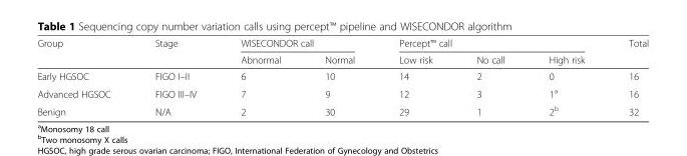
<table><thead><tr><td rowspan="2">Group</td><td rowspan="2">Stage</td><td colspan="2">WISECONDOR call</td><td colspan="3">Percept™ call</td><td rowspan="2">Total</td></tr><tr><td>Abnormal</td><td>Normal</td><td>Low risk</td><td>No call</td><td>High risk</td></tr></thead><tbody><tr><td>Early HGSOC</td><td>FIGO I–II</td><td>6</td><td>10</td><td>14</td><td>2</td><td>0</td><td>16</td></tr><tr><td>Advanced HGSOC</td><td>FIGO III–IV</td><td>7</td><td>9</td><td>12</td><td>3</td><td>1<sup>a</sup></td><td>16</td></tr><tr><td>Benign</td><td>N/A</td><td>2</td><td>30</td><td>29</td><td>1</td><td>2<sup>b</sup></td><td>32</td></tr></tbody></table>